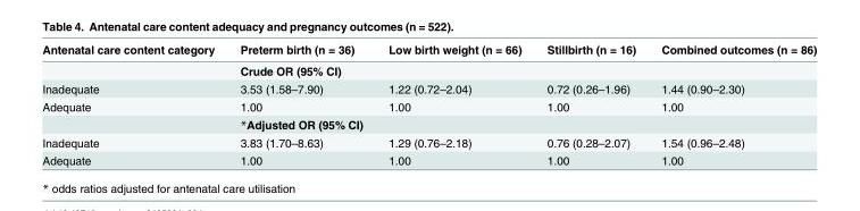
<table><thead><tr><td>Antenatal care content category</td><td>Preterm birth (n = 36)</td><td>Low birth weight (n = 66)</td><td>Stillbirth (n = 16)</td><td>Combined outcomes (n = 86)</td></tr></thead><tbody><tr><td></td><td>Crude OR (95% CI)</td><td></td><td></td><td></td></tr><tr><td>Inadequate</td><td>3.53 (1.58–7.90)</td><td>1.22 (0.72–2.04)</td><td>0.72 (0.26–1.96)</td><td>1.44 (0.90–2.30)</td></tr><tr><td rowspan="2">Adequate</td><td>1.00</td><td>1.00</td><td>1.00</td><td>1.00</td></tr><tr><td>*Adjusted OR (95% CI)</td><td></td><td></td><td></td></tr><tr><td>Inadequate</td><td>3.83 (1.70–8.63)</td><td>1.29 (0.76–2.18)</td><td>0.76 (0.28–2.07)</td><td>1.54 (0.96–2.48)</td></tr><tr><td>Adequate</td><td>1.00</td><td>1.00</td><td>1.00</td><td>1.00</td></tr></tbody></table>